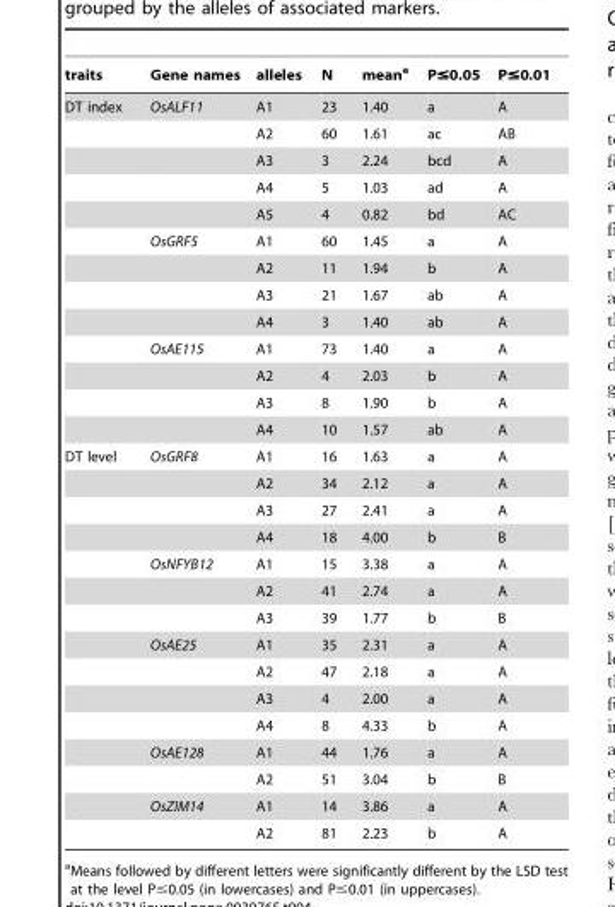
<table><thead><tr><td>traits</td><td>Gene names</td><td>alleles</td><td>N</td><td>mean<sup>a</sup></td><td>P≤0.05</td><td>P≤0.01</td></tr></thead><tbody><tr><td rowspan="13">DT index</td><td>OsALF11</td><td>A1</td><td>23</td><td>1.40</td><td>a</td><td>A</td></tr><tr><td></td><td>A2</td><td>60</td><td>1.61</td><td>ac</td><td>AB</td></tr><tr><td></td><td>A3</td><td>3</td><td>2.24</td><td>bcd</td><td>A</td></tr><tr><td></td><td>A4</td><td>5</td><td>1.03</td><td>ad</td><td>A</td></tr><tr><td></td><td>A5</td><td>4</td><td>0.82</td><td>bd</td><td>AC</td></tr><tr><td>OsGRF5</td><td>A1</td><td>60</td><td>1.45</td><td>a</td><td>A</td></tr><tr><td></td><td>A2</td><td>11</td><td>1.94</td><td>b</td><td>A</td></tr><tr><td></td><td>A3</td><td>21</td><td>1.67</td><td>ab</td><td>A</td></tr><tr><td></td><td>A4</td><td>3</td><td>1.40</td><td>ab</td><td>A</td></tr><tr><td>OsAE115</td><td>A1</td><td>73</td><td>1.40</td><td>a</td><td>A</td></tr><tr><td></td><td>A2</td><td>4</td><td>2.03</td><td>b</td><td>A</td></tr><tr><td></td><td>A3</td><td>8</td><td>1.90</td><td>b</td><td>A</td></tr><tr><td></td><td>A4</td><td>10</td><td>1.57</td><td>ab</td><td>A</td></tr><tr><td rowspan="15">DT level</td><td>OsGRF8</td><td>A1</td><td>16</td><td>1.63</td><td>a</td><td>A</td></tr><tr><td></td><td>A2</td><td>34</td><td>2.12</td><td>a</td><td>A</td></tr><tr><td></td><td>A3</td><td>27</td><td>2.41</td><td>a</td><td>A</td></tr><tr><td></td><td>A4</td><td>18</td><td>4.00</td><td>b</td><td>B</td></tr><tr><td>OsNFYB12</td><td>A1</td><td>15</td><td>3.38</td><td>a</td><td>A</td></tr><tr><td></td><td>A2</td><td>41</td><td>2.74</td><td>a</td><td>A</td></tr><tr><td></td><td>A3</td><td>39</td><td>1.77</td><td>b</td><td>B</td></tr><tr><td>OsAE25</td><td>A1</td><td>35</td><td>2.31</td><td>a</td><td>A</td></tr><tr><td></td><td>A2</td><td>47</td><td>2.18</td><td>a</td><td>A</td></tr><tr><td></td><td>A3</td><td>4</td><td>2.00</td><td>a</td><td>A</td></tr><tr><td></td><td>A4</td><td>8</td><td>4.33</td><td>b</td><td>A</td></tr><tr><td>OsAE128</td><td>A1</td><td>44</td><td>1.76</td><td>a</td><td>A</td></tr><tr><td></td><td>A2</td><td>51</td><td>3.04</td><td>b</td><td>B</td></tr><tr><td>OsZIM14</td><td>A1</td><td>14</td><td>3.86</td><td>a</td><td>A</td></tr><tr><td></td><td>A2</td><td>81</td><td>2.23</td><td>b</td><td>A</td></tr></tbody></table>